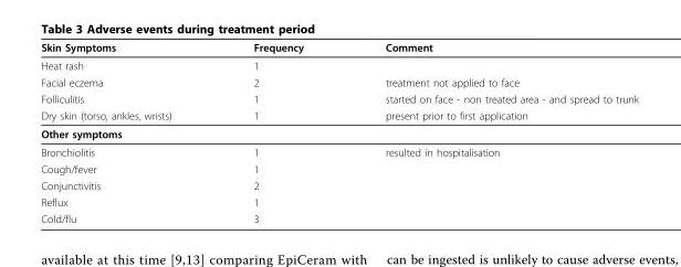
<table><thead><tr><td>Skin Symptoms</td><td>Frequency</td><td>Comment</td></tr></thead><tbody><tr><td>Heat rash</td><td>1</td><td></td></tr><tr><td>Facial eczema</td><td>2</td><td>treatment not applied to face</td></tr><tr><td>Folliculitis</td><td>1</td><td>started on face - non treated area - and spread to trunk</td></tr><tr><td>Dry skin (torso, ankles, wrists)</td><td>1</td><td>present prior to first application</td></tr><tr><td colspan="3">Other symptoms</td></tr><tr><td>Bronchiolitis</td><td>1</td><td>resulted in hospitalisation</td></tr><tr><td>Cough/fever</td><td>1</td><td></td></tr><tr><td>Conjunctivitis</td><td>2</td><td></td></tr><tr><td>Reflux</td><td>1</td><td></td></tr><tr><td>Cold/flu</td><td>3</td><td></td></tr></tbody></table>